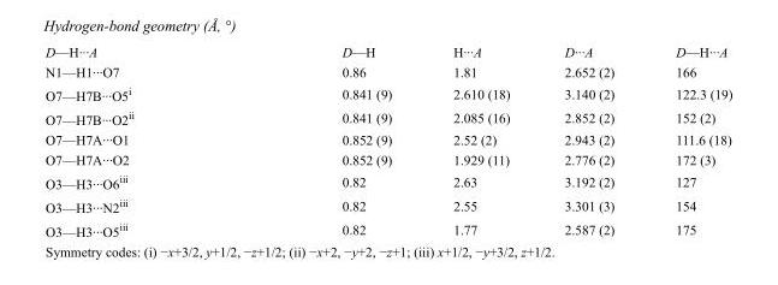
<table><tbody><tr><td>D—H···A</td><td>D—H</td><td>H···A</td><td>D···A</td><td>D—H···A</td></tr><tr><td>N1—H1···O7</td><td>0.86</td><td>1.81</td><td>2.652 (2)</td><td>166</td></tr><tr><td>O7—H7B···O5<sup>i</sup></td><td>0.841 (9)</td><td>2.610 (18)</td><td>3.140 (2)</td><td>122.3 (19)</td></tr><tr><td>O7—H7B···O2<sup>ii</sup></td><td>0.841 (9)</td><td>2.085 (16)</td><td>2.852 (2)</td><td>152 (2)</td></tr><tr><td>O7—H7A···O1</td><td>0.852 (9)</td><td>2.52 (2)</td><td>2.943 (2)</td><td>111.6 (18)</td></tr><tr><td>O7—H7A···O2</td><td>0.852 (9)</td><td>1.929 (11)</td><td>2.776 (2)</td><td>172 (3)</td></tr><tr><td>O3—H3···O6<sup>iii</sup></td><td>0.82</td><td>2.63</td><td>3.192 (2)</td><td>127</td></tr><tr><td>O3—H3···N2<sup>iii</sup></td><td>0.82</td><td>2.55</td><td>3.301 (3)</td><td>154</td></tr><tr><td>O3—H3···O5<sup>iii</sup></td><td>0.82</td><td>1.77</td><td>2.587 (2)</td><td>175</td></tr></tbody></table>